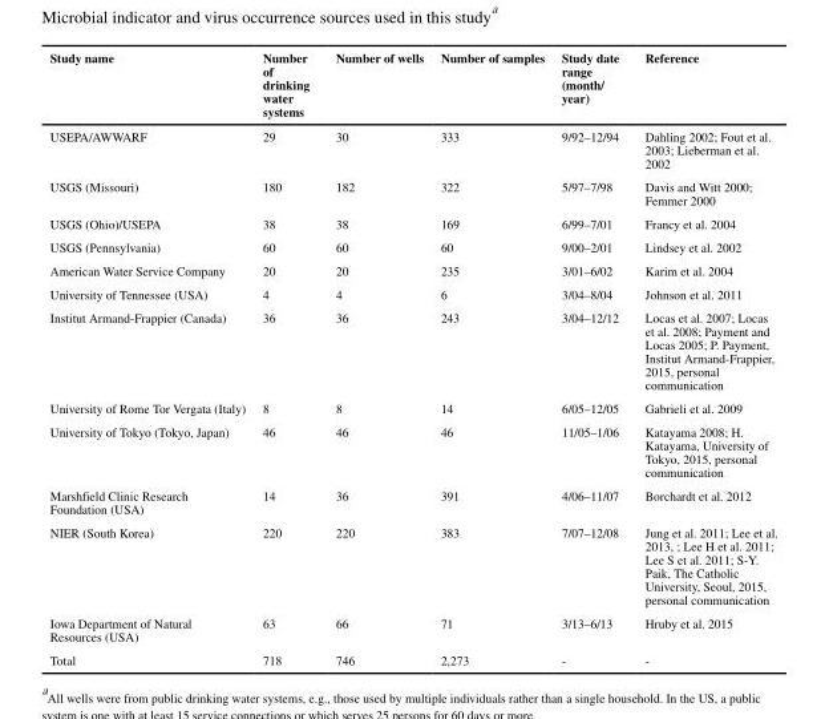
<table><thead><tr><td>Study name</td><td>Number of drinking water systems</td><td>Number of wells</td><td>Number of samples</td><td>Study date range (month/ year)</td><td>Reference</td></tr></thead><tbody><tr><td>USEPA/AWWARF</td><td>29</td><td>30</td><td>333</td><td>9/92–12/94</td><td>Dahling 2002; Fout et al. 2003; Lieberman et al. 2002</td></tr><tr><td>USGS (Missouri)</td><td>180</td><td>182</td><td>322</td><td>5/97–7/98</td><td>Davis and Witt 2000; Femmer 2000</td></tr><tr><td>USGS (Ohio)/USEPA</td><td>38</td><td>38</td><td>169</td><td>6/99–7/01</td><td>Francy et al. 2004</td></tr><tr><td>USGS (Pennsylvania)</td><td>60</td><td>60</td><td>60</td><td>9/00–2/01</td><td>Lindsey et al. 2002</td></tr><tr><td>American Water Service Company</td><td>20</td><td>20</td><td>235</td><td>3/01–6/02</td><td>Karim et al. 2004</td></tr><tr><td>University of Tennessee (USA)</td><td>4</td><td>4</td><td>6</td><td>3/04–8/04</td><td>Johnson et al. 2011</td></tr><tr><td>Institut Armand-Frappier (Canada)</td><td>36</td><td>36</td><td>243</td><td>3/04–12/12</td><td>Locas et al. 2007; Locas et al. 2008; Payment and Locas 2005; P. Payment, Institut Armand-Frappier, 2015, personal communication</td></tr><tr><td>University of Rome Tor Vergata (Italy)</td><td>8</td><td>8</td><td>14</td><td>6/05–12/05</td><td>Gabrieli et al. 2009</td></tr><tr><td>University of Tokyo (Tokyo, Japan)</td><td>46</td><td>46</td><td>46</td><td>11/05–1/06</td><td>Katayama 2008; H. Katayama, University of Tokyo, 2015, personal communication</td></tr><tr><td>Marshfield Clinic Research Foundation (USA)</td><td>14</td><td>36</td><td>391</td><td>4/06–11/07</td><td>Borchardt et al. 2012</td></tr><tr><td>NIER (South Korea)</td><td>220</td><td>220</td><td>383</td><td>7/07–12/08</td><td>Jung et al. 2011; Lee et al. 2013, ; Lee H et al. 2011; Lee S et al. 2011; S-Y. Paik, The Catholic University, Seoul, 2015, personal communication</td></tr><tr><td>Iowa Department of Natural Resources (USA)</td><td>63</td><td>66</td><td>71</td><td>3/13–6/13</td><td>Hruby et al. 2015</td></tr><tr><td>Total</td><td>718</td><td>746</td><td>2,273</td><td>-</td><td>-</td></tr></tbody></table>